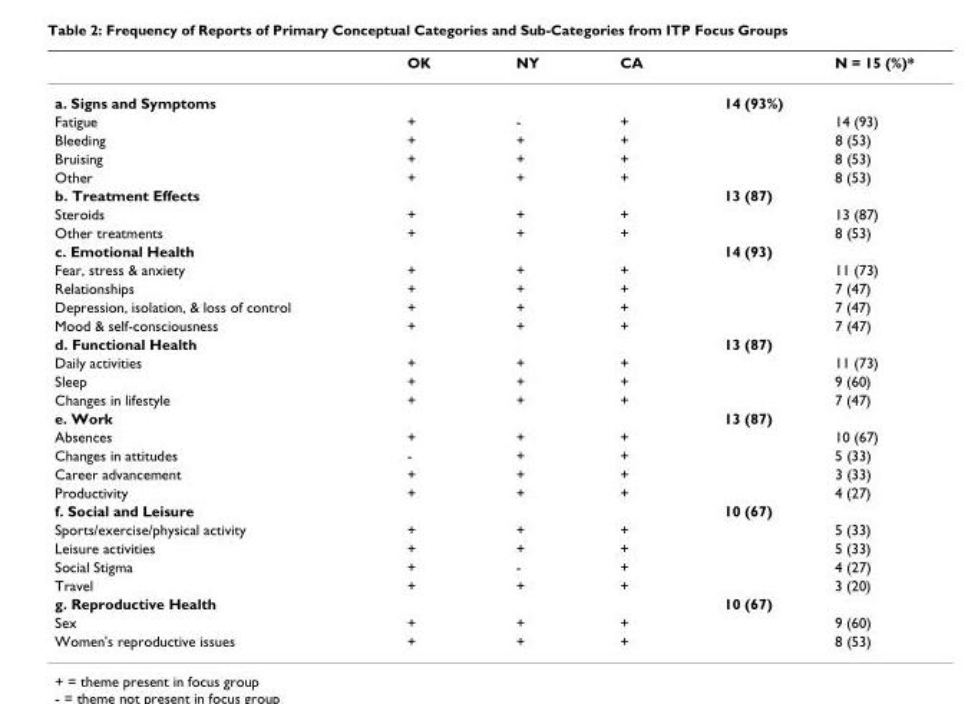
<table><thead><tr><td></td><td>OK</td><td>NY</td><td>CA</td><td></td><td>N = 15 (%)*</td></tr></thead><tbody><tr><td>a. Signs and Symptoms</td><td></td><td></td><td></td><td>14 (93%)</td><td></td></tr><tr><td>Fatigue</td><td>+</td><td>-</td><td>+</td><td></td><td>14 (93)</td></tr><tr><td>Bleeding</td><td>+</td><td>+</td><td>+</td><td></td><td>8 (53)</td></tr><tr><td>Bruising</td><td>+</td><td>+</td><td>+</td><td></td><td>8 (53)</td></tr><tr><td>Other</td><td>+</td><td>+</td><td>+</td><td></td><td>8 (53)</td></tr><tr><td>b. Treatment Effects</td><td></td><td></td><td></td><td>13 (87)</td><td></td></tr><tr><td>Steroids</td><td>+</td><td>+</td><td>+</td><td></td><td>13 (87)</td></tr><tr><td>Other treatments</td><td>+</td><td>+</td><td>+</td><td></td><td>8 (53)</td></tr><tr><td>c. Emotional Health</td><td></td><td></td><td></td><td>14 (93)</td><td></td></tr><tr><td>Fear, stress &amp; anxiety</td><td>+</td><td>+</td><td>+</td><td></td><td>11 (73)</td></tr><tr><td>Relationships</td><td>+</td><td>+</td><td>+</td><td></td><td>7 (47)</td></tr><tr><td>Depression, isolation, &amp; loss of control</td><td>+</td><td>+</td><td>+</td><td></td><td>7 (47)</td></tr><tr><td>Mood &amp; self-consciousness</td><td>+</td><td>+</td><td>+</td><td></td><td>7 (47)</td></tr><tr><td>d. Functional Health</td><td></td><td></td><td></td><td>13 (87)</td><td></td></tr><tr><td>Daily activities</td><td>+</td><td>+</td><td>+</td><td></td><td>11 (73)</td></tr><tr><td>Sleep</td><td>+</td><td>+</td><td>+</td><td></td><td>9 (60)</td></tr><tr><td>Changes in lifestyle</td><td>+</td><td>+</td><td>+</td><td></td><td>7 (47)</td></tr><tr><td>e. Work</td><td></td><td></td><td></td><td>13 (87)</td><td></td></tr><tr><td>Absences</td><td>+</td><td>+</td><td>+</td><td></td><td>10 (67)</td></tr><tr><td>Changes in attitudes</td><td>-</td><td>+</td><td>+</td><td></td><td>5 (33)</td></tr><tr><td>Career advancement</td><td>+</td><td>+</td><td>+</td><td></td><td>3 (33)</td></tr><tr><td>Productivity</td><td>+</td><td>+</td><td>+</td><td></td><td>4 (27)</td></tr><tr><td>f. Social and Leisure</td><td></td><td></td><td></td><td>10 (67)</td><td></td></tr><tr><td>Sports/exercise/physical activity</td><td>+</td><td>+</td><td>+</td><td></td><td>5 (33)</td></tr><tr><td>Leisure activities</td><td>+</td><td>+</td><td>+</td><td></td><td>5 (33)</td></tr><tr><td>Social Stigma</td><td>+</td><td>-</td><td>+</td><td></td><td>4 (27)</td></tr><tr><td>Travel</td><td>+</td><td>+</td><td>+</td><td></td><td>3 (20)</td></tr><tr><td>g. Reproductive Health</td><td></td><td></td><td></td><td>10 (67)</td><td></td></tr><tr><td>Sex</td><td>+</td><td>+</td><td>+</td><td></td><td>9 (60)</td></tr><tr><td>Women&#x27;s reproductive issues</td><td>+</td><td>+</td><td>+</td><td></td><td>8 (53)</td></tr></tbody></table>